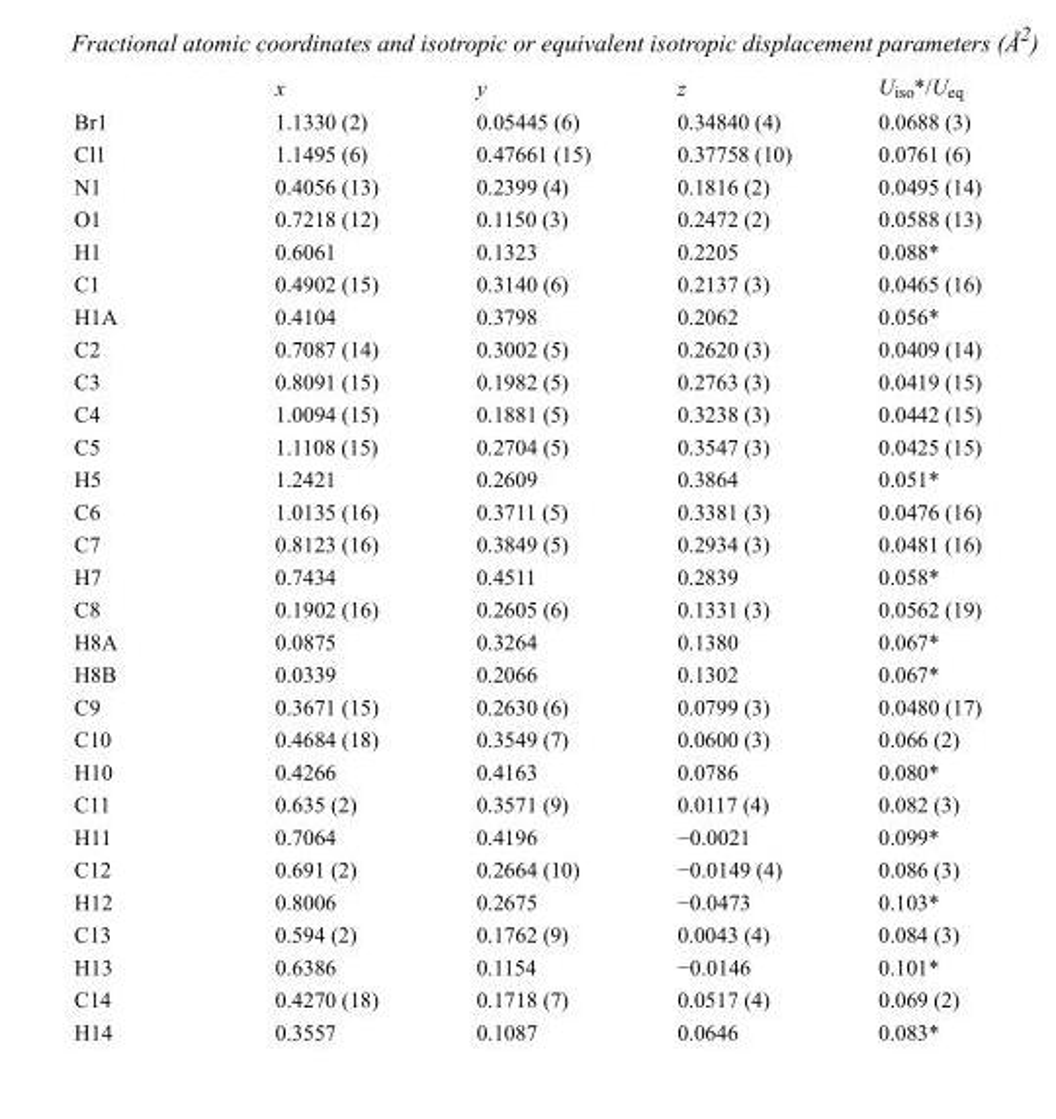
<table><thead><tr><td></td><td>x</td><td>y</td><td>z</td><td>U<sub>iso</sub>*/U<sub>eq</sub></td></tr></thead><tbody><tr><td>Br1</td><td>1.1330 (2)</td><td>0.05445 (6)</td><td>0.34840 (4)</td><td>0.0688 (3)</td></tr><tr><td>Cl1</td><td>1.1495 (6)</td><td>0.47661 (15)</td><td>0.37758 (10)</td><td>0.0761 (6)</td></tr><tr><td>N1</td><td>0.4056 (13)</td><td>0.2399 (4)</td><td>0.1816 (2)</td><td>0.0495 (14)</td></tr><tr><td>O1</td><td>0.7218 (12)</td><td>0.1150 (3)</td><td>0.2472 (2)</td><td>0.0588 (13)</td></tr><tr><td>H1</td><td>0.6061</td><td>0.1323</td><td>0.2205</td><td>0.088*</td></tr><tr><td>C1</td><td>0.4902 (15)</td><td>0.3140 (6)</td><td>0.2137 (3)</td><td>0.0465 (16)</td></tr><tr><td>H1A</td><td>0.4104</td><td>0.3798</td><td>0.2062</td><td>0.056*</td></tr><tr><td>C2</td><td>0.7087 (14)</td><td>0.3002 (5)</td><td>0.2620 (3)</td><td>0.0409 (14)</td></tr><tr><td>C3</td><td>0.8091 (15)</td><td>0.1982 (5)</td><td>0.2763 (3)</td><td>0.0419 (15)</td></tr><tr><td>C4</td><td>1.0094 (15)</td><td>0.1881 (5)</td><td>0.3238 (3)</td><td>0.0442 (15)</td></tr><tr><td>C5</td><td>1.1108 (15)</td><td>0.2704 (5)</td><td>0.3547 (3)</td><td>0.0425 (15)</td></tr><tr><td>H5</td><td>1.2421</td><td>0.2609</td><td>0.3864</td><td>0.051*</td></tr><tr><td>C6</td><td>1.0135 (16)</td><td>0.3711 (5)</td><td>0.3381 (3)</td><td>0.0476 (16)</td></tr><tr><td>C7</td><td>0.8123 (16)</td><td>0.3849 (5)</td><td>0.2934 (3)</td><td>0.0481 (16)</td></tr><tr><td>H7</td><td>0.7434</td><td>0.4511</td><td>0.2839</td><td>0.058*</td></tr><tr><td>C8</td><td>0.1902 (16)</td><td>0.2605 (6)</td><td>0.1331 (3)</td><td>0.0562 (19)</td></tr><tr><td>H8A</td><td>0.0875</td><td>0.3264</td><td>0.1380</td><td>0.067*</td></tr><tr><td>H8B</td><td>0.0339</td><td>0.2066</td><td>0.1302</td><td>0.067*</td></tr><tr><td>C9</td><td>0.3671 (15)</td><td>0.2630 (6)</td><td>0.0799 (3)</td><td>0.0480 (17)</td></tr><tr><td>C10</td><td>0.4684 (18)</td><td>0.3549 (7)</td><td>0.0600 (3)</td><td>0.066 (2)</td></tr><tr><td>H10</td><td>0.4266</td><td>0.4163</td><td>0.0786</td><td>0.080*</td></tr><tr><td>C11</td><td>0.635 (2)</td><td>0.3571 (9)</td><td>0.0117 (4)</td><td>0.082 (3)</td></tr><tr><td>H11</td><td>0.7064</td><td>0.4196</td><td>−0.0021</td><td>0.099*</td></tr><tr><td>C12</td><td>0.691 (2)</td><td>0.2664 (10)</td><td>−0.0149 (4)</td><td>0.086 (3)</td></tr><tr><td>H12</td><td>0.8006</td><td>0.2675</td><td>−0.0473</td><td>0.103*</td></tr><tr><td>C13</td><td>0.594 (2)</td><td>0.1762 (9)</td><td>0.0043 (4)</td><td>0.084 (3)</td></tr><tr><td>H13</td><td>0.6386</td><td>0.1154</td><td>−0.0146</td><td>0.101*</td></tr><tr><td>C14</td><td>0.4270 (18)</td><td>0.1718 (7)</td><td>0.0517 (4)</td><td>0.069 (2)</td></tr><tr><td>H14</td><td>0.3557</td><td>0.1087</td><td>0.0646</td><td>0.083*</td></tr></tbody></table>